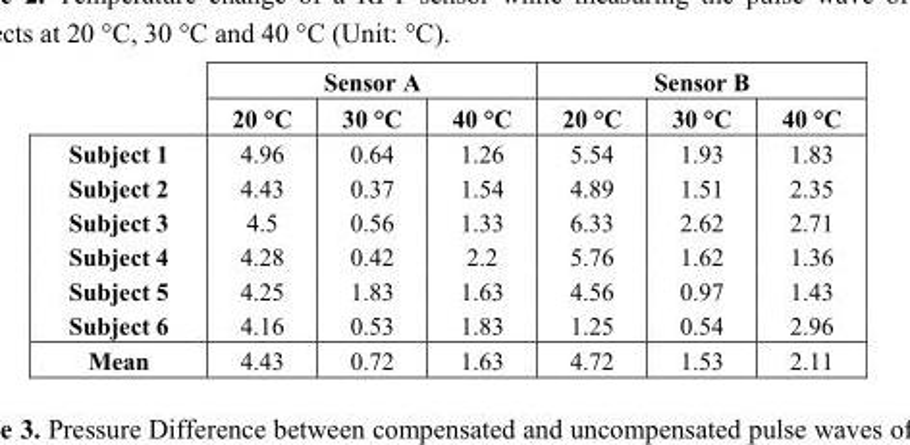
<table><thead><tr><td rowspan="2"></td><td colspan="3">Sensor A</td><td colspan="3">Sensor B</td></tr><tr><td>20 °C</td><td>30 °C</td><td>40 °C</td><td>20 °C</td><td>30 °C</td><td>40 °C</td></tr></thead><tbody><tr><td>Subject 1</td><td>4.96</td><td>0.64</td><td>1.26</td><td>5.54</td><td>1.93</td><td>1.83</td></tr><tr><td>Subject 2</td><td>4.43</td><td>0.37</td><td>1.54</td><td>4.89</td><td>1.51</td><td>2.35</td></tr><tr><td>Subject 3</td><td>4.5</td><td>0.56</td><td>1.33</td><td>6.33</td><td>2.62</td><td>2.71</td></tr><tr><td>Subject 4</td><td>4.28</td><td>0.42</td><td>2.2</td><td>5.76</td><td>1.62</td><td>1.36</td></tr><tr><td>Subject 5</td><td>4.25</td><td>1.83</td><td>1.63</td><td>4.56</td><td>0.97</td><td>1.43</td></tr><tr><td>Subject 6</td><td>4.16</td><td>0.53</td><td>1.83</td><td>1.25</td><td>0.54</td><td>2.96</td></tr><tr><td>Mean</td><td>4.43</td><td>0.72</td><td>1.63</td><td>4.72</td><td>1.53</td><td>2.11</td></tr></tbody></table>